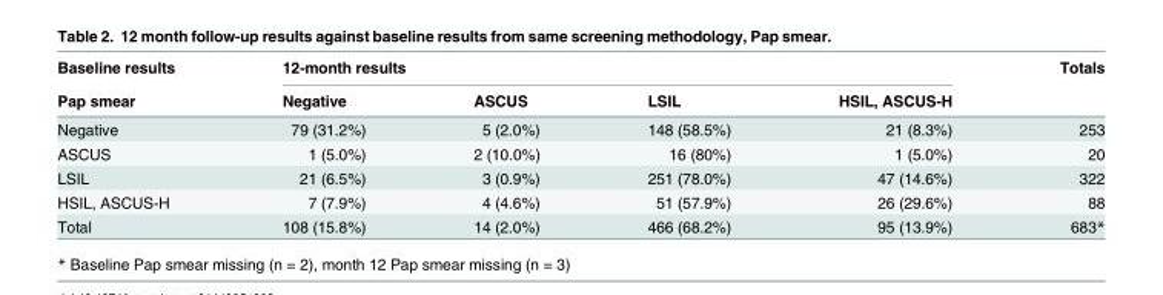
<table><thead><tr><td rowspan="2">Baseline results Pap smear</td><td colspan="4">12-month results</td><td rowspan="2">Totals</td></tr><tr><td>Negative</td><td>ASCUS</td><td>LSIL</td><td>HSIL, ASCUS-H</td></tr></thead><tbody><tr><td>Negative</td><td>79 (31.2%)</td><td>5 (2.0%)</td><td>148 (58.5%)</td><td>21 (8.3%)</td><td>253</td></tr><tr><td>ASCUS</td><td>1 (5.0%)</td><td>2 (10.0%)</td><td>16 (80%)</td><td>1 (5.0%)</td><td>20</td></tr><tr><td>LSIL</td><td>21 (6.5%)</td><td>3 (0.9%)</td><td>251 (78.0%)</td><td>47 (14.6%)</td><td>322</td></tr><tr><td>HSIL, ASCUS-H</td><td>7 (7.9%)</td><td>4 (4.6%)</td><td>51 (57.9%)</td><td>26 (29.6%)</td><td>88</td></tr><tr><td>Total</td><td>108 (15.8%)</td><td>14 (2.0%)</td><td>466 (68.2%)</td><td>95 (13.9%)</td><td>683*</td></tr></tbody></table>